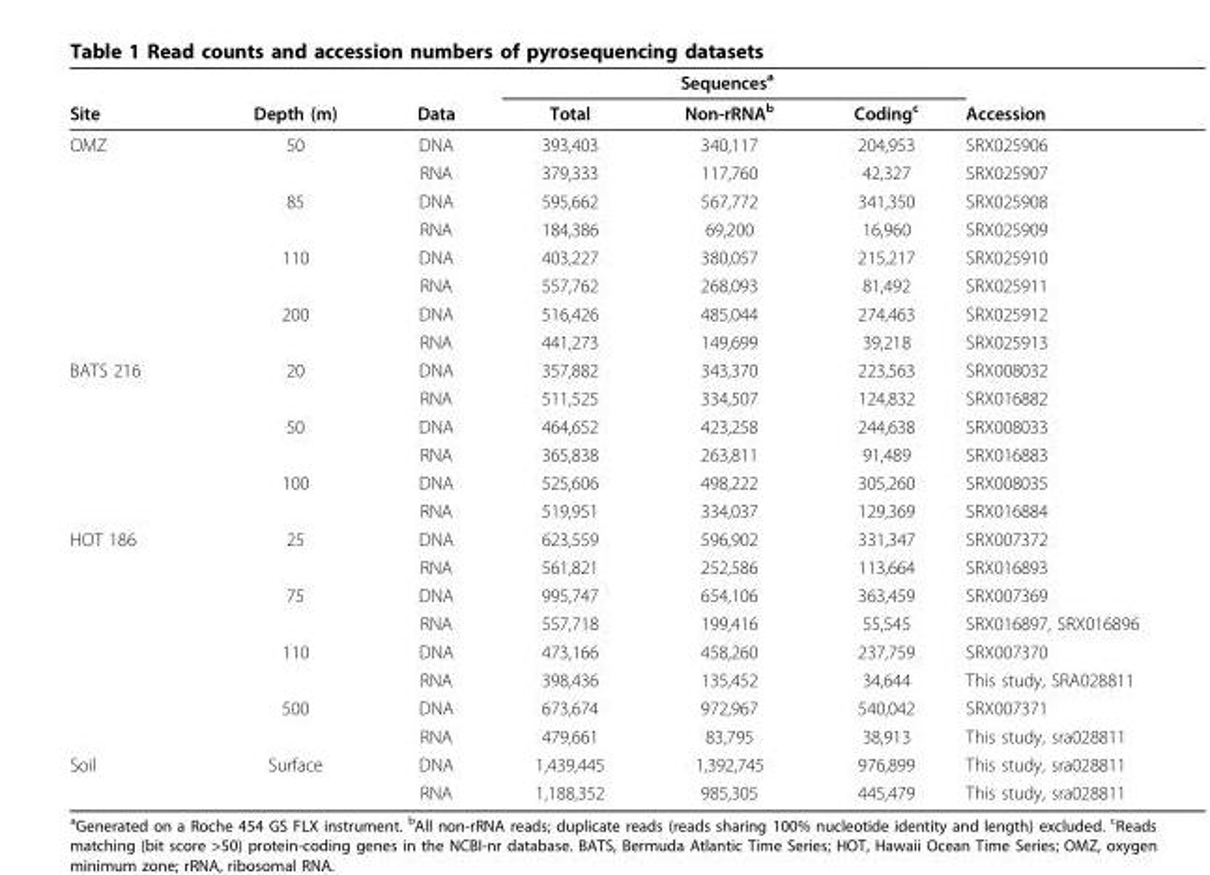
<table><thead><tr><td rowspan="2">Site</td><td rowspan="2">Depth (m)</td><td rowspan="2">Data</td><td colspan="3">Sequences<sup>a</sup></td><td rowspan="2">Accession</td></tr><tr><td>Total</td><td>Non-rRNA<sup>b</sup></td><td>Coding<sup>c</sup></td></tr></thead><tbody><tr><td rowspan="8">OMZ</td><td>50</td><td>DNA</td><td>393,403</td><td>340,117</td><td>204,953</td><td>SRX025906</td></tr><tr><td></td><td>RNA</td><td>379,333</td><td>117,760</td><td>42,327</td><td>SRX025907</td></tr><tr><td>85</td><td>DNA</td><td>595,662</td><td>567,772</td><td>341,350</td><td>SRX025908</td></tr><tr><td></td><td>RNA</td><td>184,386</td><td>69,200</td><td>16,960</td><td>SRX025909</td></tr><tr><td>110</td><td>DNA</td><td>403,227</td><td>380,057</td><td>215,217</td><td>SRX025910</td></tr><tr><td></td><td>RNA</td><td>557,762</td><td>268,093</td><td>81,492</td><td>SRX025911</td></tr><tr><td>200</td><td>DNA</td><td>516,426</td><td>485,044</td><td>274,463</td><td>SRX025912</td></tr><tr><td></td><td>RNA</td><td>441,273</td><td>149,699</td><td>39,218</td><td>SRX025913</td></tr><tr><td rowspan="6">BATS 216</td><td>20</td><td>DNA</td><td>357,882</td><td>343,370</td><td>223,563</td><td>SRX008032</td></tr><tr><td></td><td>RNA</td><td>511,525</td><td>334,507</td><td>124,832</td><td>SRX016882</td></tr><tr><td>50</td><td>DNA</td><td>464,652</td><td>423,258</td><td>244,638</td><td>SRX008033</td></tr><tr><td></td><td>RNA</td><td>365,838</td><td>263,811</td><td>91,489</td><td>SRX016883</td></tr><tr><td>100</td><td>DNA</td><td>525,606</td><td>498,222</td><td>305,260</td><td>SRX008035</td></tr><tr><td></td><td>RNA</td><td>519,951</td><td>334,037</td><td>129,369</td><td>SRX016884</td></tr><tr><td rowspan="8">HOT 186</td><td>25</td><td>DNA</td><td>623,559</td><td>596,902</td><td>331,347</td><td>SRX007372</td></tr><tr><td></td><td>RNA</td><td>561,821</td><td>252,586</td><td>113,664</td><td>SRX016893</td></tr><tr><td>75</td><td>DNA</td><td>995,747</td><td>654,106</td><td>363,459</td><td>SRX007369</td></tr><tr><td></td><td>RNA</td><td>557,718</td><td>199,416</td><td>55,545</td><td>SRX016897, SRX016896</td></tr><tr><td>110</td><td>DNA</td><td>473,166</td><td>458,260</td><td>237,759</td><td>SRX007370</td></tr><tr><td></td><td>RNA</td><td>398,436</td><td>135,452</td><td>34,644</td><td>This study, SRA028811</td></tr><tr><td>500</td><td>DNA</td><td>673,674</td><td>972,967</td><td>540,042</td><td>SRX007371</td></tr><tr><td></td><td>RNA</td><td>479,661</td><td>83,795</td><td>38,913</td><td>This study, sra028811</td></tr><tr><td rowspan="2">Soil</td><td>Surface</td><td>DNA</td><td>1,439,445</td><td>1,392,745</td><td>976,899</td><td>This study, sra028811</td></tr><tr><td></td><td>RNA</td><td>1,188,352</td><td>985,305</td><td>445,479</td><td>This study, sra028811</td></tr></tbody></table>